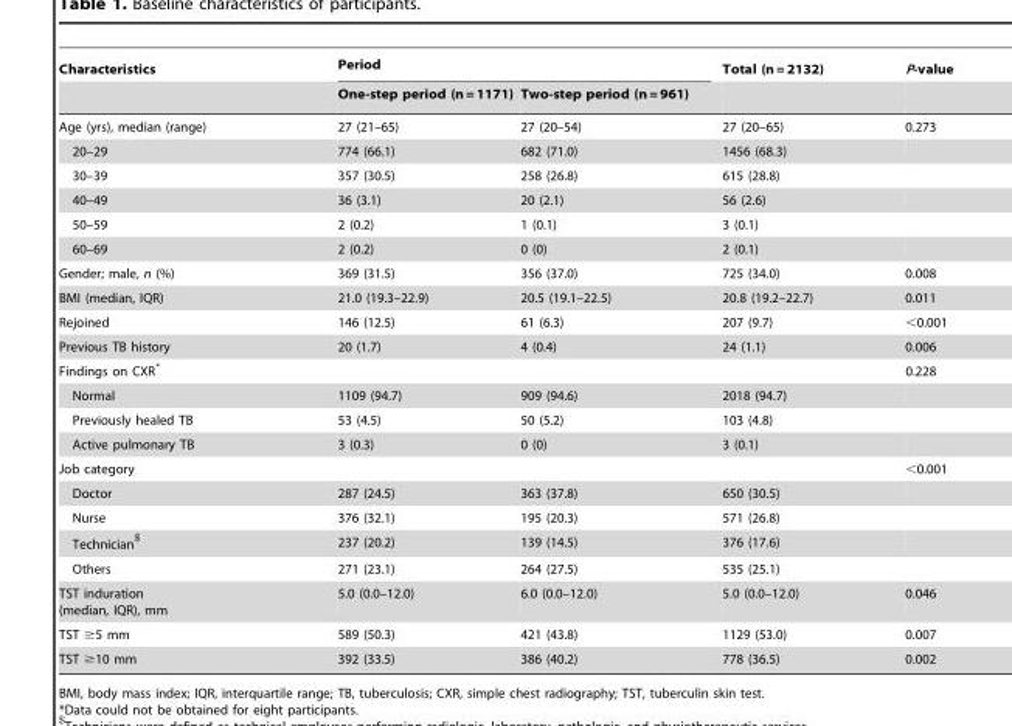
<table><thead><tr><td rowspan="2">Characteristics</td><td colspan="2">Period</td><td rowspan="2">Total (n = 2132)</td><td rowspan="2">P-value</td></tr><tr><td>One-step period (n = 1171)</td><td>Two-step period (n = 961)</td></tr></thead><tbody><tr><td>Age (yrs), median (range)</td><td>27 (21–65)</td><td>27 (20–54)</td><td>27 (20–65)</td><td>0.273</td></tr><tr><td>20–29</td><td>774 (66.1)</td><td>682 (71.0)</td><td>1456 (68.3)</td><td></td></tr><tr><td>30–39</td><td>357 (30.5)</td><td>258 (26.8)</td><td>615 (28.8)</td><td></td></tr><tr><td>40–49</td><td>36 (3.1)</td><td>20 (2.1)</td><td>56 (2.6)</td><td></td></tr><tr><td>50–59</td><td>2 (0.2)</td><td>1 (0.1)</td><td>3 (0.1)</td><td></td></tr><tr><td>60–69</td><td>2 (0.2)</td><td>0 (0)</td><td>2 (0.1)</td><td></td></tr><tr><td>Gender; male, n (%)</td><td>369 (31.5)</td><td>356 (37.0)</td><td>725 (34.0)</td><td>0.008</td></tr><tr><td>BMI (median, IQR)</td><td>21.0 (19.3–22.9)</td><td>20.5 (19.1–22.5)</td><td>20.8 (19.2–22.7)</td><td>0.011</td></tr><tr><td>Rejoined</td><td>146 (12.5)</td><td>61 (6.3)</td><td>207 (9.7)</td><td>&lt;0.001</td></tr><tr><td>Previous TB history</td><td>20 (1.7)</td><td>4 (0.4)</td><td>24 (1.1)</td><td>0.006</td></tr><tr><td>Findings on CXR*</td><td></td><td></td><td></td><td>0.228</td></tr><tr><td>Normal</td><td>1109 (94.7)</td><td>909 (94.6)</td><td>2018 (94.7)</td><td></td></tr><tr><td>Previously healed TB</td><td>53 (4.5)</td><td>50 (5.2)</td><td>103 (4.8)</td><td></td></tr><tr><td>Active pulmonary TB</td><td>3 (0.3)</td><td>0 (0)</td><td>3 (0.1)</td><td></td></tr><tr><td>Job category</td><td></td><td></td><td></td><td>&lt;0.001</td></tr><tr><td>Doctor</td><td>287 (24.5)</td><td>363 (37.8)</td><td>650 (30.5)</td><td></td></tr><tr><td>Nurse</td><td>376 (32.1)</td><td>195 (20.3)</td><td>571 (26.8)</td><td></td></tr><tr><td>Technician$</td><td>237 (20.2)</td><td>139 (14.5)</td><td>376 (17.6)</td><td></td></tr><tr><td>Others</td><td>271 (23.1)</td><td>264 (27.5)</td><td>535 (25.1)</td><td></td></tr><tr><td>TST induration (median, IQR), mm</td><td>5.0 (0.0–12.0)</td><td>6.0 (0.0–12.0)</td><td>5.0 (0.0–12.0)</td><td>0.046</td></tr><tr><td>TST ≥5 mm</td><td>589 (50.3)</td><td>421 (43.8)</td><td>1129 (53.0)</td><td>0.007</td></tr><tr><td>TST ≥10 mm</td><td>392 (33.5)</td><td>386 (40.2)</td><td>778 (36.5)</td><td>0.002</td></tr></tbody></table>